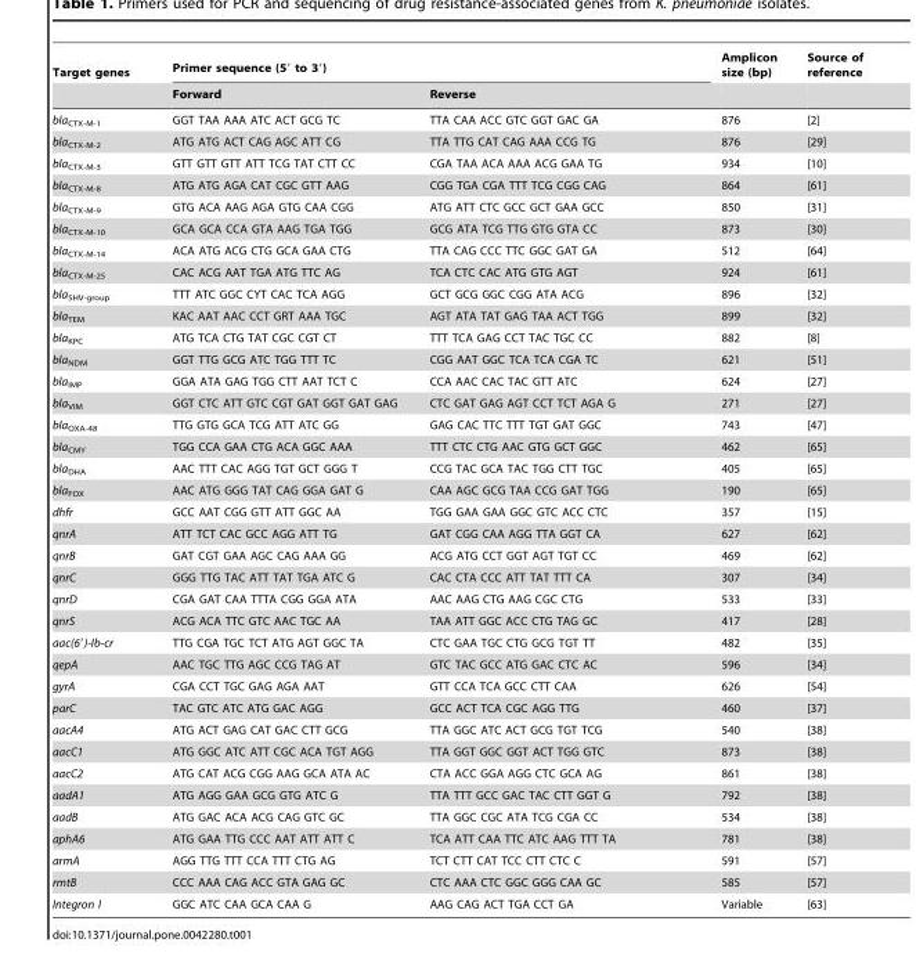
<table><thead><tr><td rowspan="2">Target genes</td><td colspan="2">Primer sequence (5′ to 3′)</td><td rowspan="2">Amplicon size (bp)</td><td rowspan="2">Source of reference</td></tr><tr><td>Forward</td><td>Reverse</td></tr></thead><tbody><tr><td>bla<sub>CTX-M-1</sub></td><td>GGT TAA AAA ATC ACT GCG TC</td><td>TTA CAA ACC GTC GGT GAC GA</td><td>876</td><td>[2]</td></tr><tr><td>bla<sub>CTX-M-2</sub></td><td>ATG ATG ACT CAG AGC ATT CG</td><td>TTA TTG CAT CAG AAA CCG TG</td><td>876</td><td>[29]</td></tr><tr><td>bla<sub>CTX-M-3</sub></td><td>GTT GTT GTT ATT TCG TAT CTT CC</td><td>CGA TAA ACA AAA ACG GAA TG</td><td>934</td><td>[10]</td></tr><tr><td>bla<sub>CTX-M-8</sub></td><td>ATG ATG AGA CAT CGC GTT AAG</td><td>CGG TGA CGA TTT TCG CGG CAG</td><td>864</td><td>[61]</td></tr><tr><td>bla<sub>CTX-M-9</sub></td><td>GTG ACA AAG AGA GTG CAA CGG</td><td>ATG ATT CTC GCC GCT GAA GCC</td><td>850</td><td>[31]</td></tr><tr><td>bla<sub>CTX-M-10</sub></td><td>GCA GCA CCA GTA AAG TGA TGG</td><td>GCG ATA TCG TTG GTG GTA CC</td><td>873</td><td>[30]</td></tr><tr><td>bla<sub>CTX-M-14</sub></td><td>ACA ATG ACG CTG GCA GAA CTG</td><td>TTA CAG CCC TTC GGC GAT GA</td><td>512</td><td>[64]</td></tr><tr><td>bla<sub>CTX-M-25</sub></td><td>CAC ACG AAT TGA ATG TTC AG</td><td>TCA CTC CAC ATG GTG AGT</td><td>924</td><td>[61]</td></tr><tr><td>bla<sub>SHV-group</sub></td><td>TTT ATC GGC CYT CAC TCA AGG</td><td>GCT GCG GGC CGG ATA ACG</td><td>896</td><td>[32]</td></tr><tr><td>bla<sub>TEM</sub></td><td>KAC AAT AAC CCT GRT AAA TGC</td><td>AGT ATA TAT GAG TAA ACT TGG</td><td>899</td><td>[32]</td></tr><tr><td>bla<sub>KPC</sub></td><td>ATG TCA CTG TAT CGC CGT CT</td><td>TTT TCA GAG CCT TAC TGC CC</td><td>882</td><td>[8]</td></tr><tr><td>bla<sub>NDM</sub></td><td>GGT TTG GCG ATC TGG TTT TC</td><td>CGG AAT GGC TCA TCA CGA TC</td><td>621</td><td>[51]</td></tr><tr><td>bla<sub>IMP</sub></td><td>GGA ATA GAG TGG CTT AAT TCT C</td><td>CCA AAC CAC TAC GTT ATC</td><td>624</td><td>[27]</td></tr><tr><td>bla<sub>VIM</sub></td><td>GGT CTC ATT GTC CGT GAT GGT GAT GAG</td><td>CTC GAT GAG AGT CCT TCT AGA G</td><td>271</td><td>[27]</td></tr><tr><td>bla<sub>OXA-48</sub></td><td>TTG GTG GCA TCG ATT ATC GG</td><td>GAG CAC TTC TTT TGT GAT GGC</td><td>743</td><td>[47]</td></tr><tr><td>bla<sub>CMY</sub></td><td>TGG CCA GAA CTG ACA GGC AAA</td><td>TTT CTC CTG AAC GTG GCT GGC</td><td>462</td><td>[65]</td></tr><tr><td>bla<sub>DHA</sub></td><td>AAC TTT CAC AGG TGT GCT GGG T</td><td>CCG TAC GCA TAC TGG CTT TGC</td><td>405</td><td>[65]</td></tr><tr><td>bla<sub>FOX</sub></td><td>AAC ATG GGG TAT CAG GGA GAT G</td><td>CAA AGC GCG TAA CCG GAT TGG</td><td>190</td><td>[65]</td></tr><tr><td>dhfr</td><td>GCC AAT CGG GTT ATT GGC AA</td><td>TGG GAA GAA GGC GTC ACC CTC</td><td>357</td><td>[15]</td></tr><tr><td>qnrA</td><td>ATT TCT CAC GCC AGG ATT TG</td><td>GAT CGG CAA AGG TTA GGT CA</td><td>627</td><td>[62]</td></tr><tr><td>qnrB</td><td>GAT CGT GAA AGC CAG AAA GG</td><td>ACG ATG CCT GGT AGT TGT CC</td><td>469</td><td>[62]</td></tr><tr><td>qnrC</td><td>GGG TTG TAC ATT TAT TGA ATC G</td><td>CAC CTA CCC ATT TAT TTT CA</td><td>307</td><td>[34]</td></tr><tr><td>qnrD</td><td>CGA GAT CAA TTTA CGG GGA ATA</td><td>AAC AAG CTG AAG CGC CTG</td><td>533</td><td>[33]</td></tr><tr><td>qnrS</td><td>ACG ACA TTC GTC AAC TGC AA</td><td>TAA ATT GGC ACC CTG TAG GC</td><td>417</td><td>[28]</td></tr><tr><td>aac(6′)-Ib-cr</td><td>TTG CGA TGC TCT ATG AGT GGC TA</td><td>CTC GAA TGC CTG GCG TGT TT</td><td>482</td><td>[35]</td></tr><tr><td>qepA</td><td>AAC TGC TTG AGC CCG TAG AT</td><td>GTC TAC GCC ATG GAC CTC AC</td><td>596</td><td>[34]</td></tr><tr><td>gyrA</td><td>CGA CCT TGC GAG AGA AAT</td><td>GTT CCA TCA GCC CTT CAA</td><td>626</td><td>[54]</td></tr><tr><td>parC</td><td>TAC GTC ATC ATG GAC AGG</td><td>GCC ACT TCA CGC AGG TTG</td><td>460</td><td>[37]</td></tr><tr><td>aacA4</td><td>ATG ACT GAG CAT GAC CTT GCG</td><td>TTA GGC ATC ACT GCG TGT TCG</td><td>540</td><td>[38]</td></tr><tr><td>aacC1</td><td>ATG GGC ATC ATT CGC ACA TGT AGG</td><td>TTA GGT GGC GGT ACT TGG GTC</td><td>873</td><td>[38]</td></tr><tr><td>aacC2</td><td>ATG CAT ACG CGG AAG GCA ATA AC</td><td>CTA ACC GGA AGG CTC GCA AG</td><td>861</td><td>[38]</td></tr><tr><td>aadA1</td><td>ATG AGG GAA GCG GTG ATC G</td><td>TTA TTT GCC GAC TAC CTT GGT G</td><td>792</td><td>[38]</td></tr><tr><td>aadB</td><td>ATG GAC ACA ACG CAG GTC GC</td><td>TTA GGC CGC ATA TCG CGA CC</td><td>534</td><td>[38]</td></tr><tr><td>aphA6</td><td>ATG GAA TTG CCC AAT ATT ATT C</td><td>TCA ATT CAA TTC ATC AAG TTT TA</td><td>781</td><td>[38]</td></tr><tr><td>armA</td><td>AGG TTG TTT CCA TTT CTG AG</td><td>TCT CTT CAT TCC CTT CTC C</td><td>591</td><td>[57]</td></tr><tr><td>rmtB</td><td>CCC AAA CAG ACC GTA GAG GC</td><td>CTC AAA CTC GGC GGG CAA GC</td><td>585</td><td>[57]</td></tr><tr><td>Integron I</td><td>GGC ATC CAA GCA CAA G</td><td>AAG CAG ACT TGA CCT GA</td><td>Variable</td><td>[63]</td></tr></tbody></table>